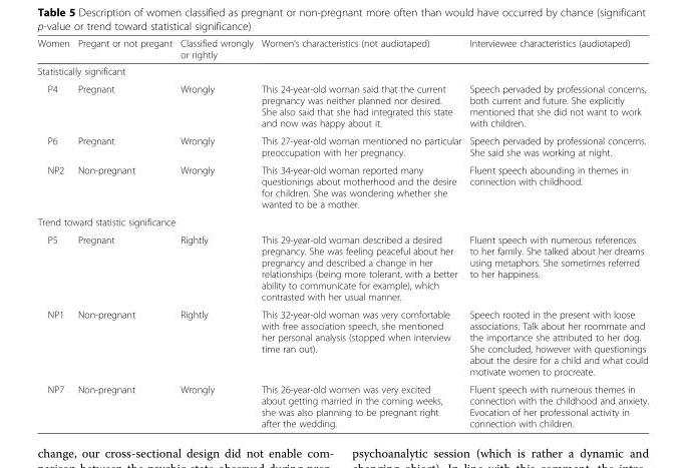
<table><thead><tr><td>Women</td><td>Pregant or not pregant</td><td>Classified wrongly or rightly</td><td>Women’s characteristics (not audiotaped)</td><td>Interviewee characteristics (audiotaped)</td></tr></thead><tbody><tr><td colspan="5">Statistically significant</td></tr><tr><td>P4</td><td>Pregnant</td><td>Wrongly</td><td>This 24-year-old woman said that the current pregnancy was neither planned nor desired. She also said that she had integrated this state and now was happy about it.</td><td>Speech pervaded by professional concerns, both current and future. She explicitly mentioned that she did not want to work with children.</td></tr><tr><td>P6</td><td>Pregnant</td><td>Wrongly</td><td>This 27-year-old woman mentioned no particular preoccupation with her pregnancy.</td><td>Speech pervaded by professional concerns. She said she was working at night.</td></tr><tr><td>NP2</td><td>Non-pregnant</td><td>Wrongly</td><td>This 34-year-old woman reported many questionings about motherhood and the desire for children. She was wondering whether she wanted to be a mother.</td><td>Fluent speech abounding in themes in connection with childhood.</td></tr><tr><td colspan="5">Trend toward statistic significance</td></tr><tr><td>P5</td><td>Pregnant</td><td>Rightly</td><td>This 29-year-old woman described a desired pregnancy. She was feeling peaceful about her pregnancy and described a change in her relationships (being more tolerant, with a better ability to communicate for example), which contrasted with her usual manner.</td><td>Fluent speech with numerous references to her family. She talked about her dreams using metaphors. She sometimes referred to her happiness.</td></tr><tr><td>NP1</td><td>Non-pregnant</td><td>Rightly</td><td>This 32-year-old woman was very comfortable with free association speech, she mentioned her personal analysis (stopped when interview time ran out).</td><td>Speech rooted in the present with loose associations. Talk about her roommate and the importance she attributed to her dog. She concluded, however with questionings about the desire for a child and what could motivate women to procreate.</td></tr><tr><td>NP7</td><td>Non-pregnant</td><td>Wrongly</td><td>This 26-year-old women was very excited about getting married in the coming weeks, she was also planning to be pregnant right after the wedding.</td><td>Fluent speech with numerous themes in connection with the childhood and anxiety. Evocation of her professional activity in connection with children.</td></tr></tbody></table>